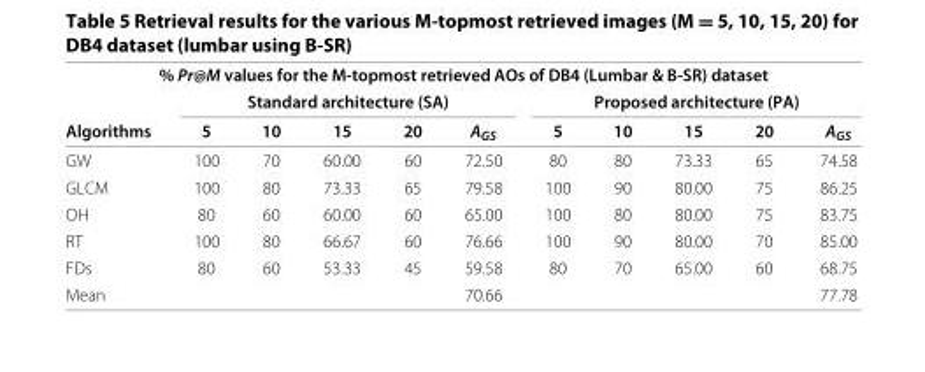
<table><thead><tr><td rowspan="3">Algorithms</td><td colspan="10">% Pr@M values for the M-topmost retrieved AOs of DB4 (Lumbar &amp; B-SR) dataset</td></tr><tr><td colspan="5">Standard architecture (SA)</td><td colspan="5">Proposed architecture (PA)</td></tr><tr><td>5</td><td>10</td><td>15</td><td>20</td><td>A<sub>GS</sub></td><td>5</td><td>10</td><td>15</td><td>20</td><td>A<sub>GS</sub></td></tr></thead><tbody><tr><td>GW</td><td>100</td><td>70</td><td>60.00</td><td>60</td><td>72.50</td><td>80</td><td>80</td><td>73.33</td><td>65</td><td>74.58</td></tr><tr><td>GLCM</td><td>100</td><td>80</td><td>73.33</td><td>65</td><td>79.58</td><td>100</td><td>90</td><td>80.00</td><td>75</td><td>86.25</td></tr><tr><td>OH</td><td>80</td><td>60</td><td>60.00</td><td>60</td><td>65.00</td><td>100</td><td>80</td><td>80.00</td><td>75</td><td>83.75</td></tr><tr><td>RT</td><td>100</td><td>80</td><td>66.67</td><td>60</td><td>76.66</td><td>100</td><td>90</td><td>80.00</td><td>70</td><td>85.00</td></tr><tr><td>FDs</td><td>80</td><td>60</td><td>53.33</td><td>45</td><td>59.58</td><td>80</td><td>70</td><td>65.00</td><td>60</td><td>68.75</td></tr><tr><td>Mean</td><td></td><td></td><td></td><td></td><td>70.66</td><td></td><td></td><td></td><td></td><td>77.78</td></tr></tbody></table>